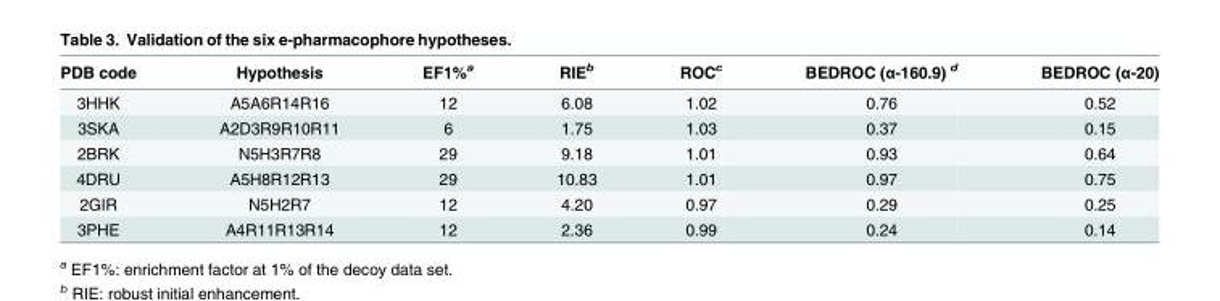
<table><thead><tr><td>PDB code</td><td>Hypothesis</td><td>EF1%<sup>a</sup></td><td>RIE<sup>b</sup></td><td>ROC<sup>c</sup></td><td>BEDROC (α-160.9) <sup>d</sup></td><td>BEDROC (α-20)</td></tr></thead><tbody><tr><td>3HHK</td><td>A5A6R14R16</td><td>12</td><td>6.08</td><td>1.02</td><td>0.76</td><td>0.52</td></tr><tr><td>3SKA</td><td>A2D3R9R10R11</td><td>6</td><td>1.75</td><td>1.03</td><td>0.37</td><td>0.15</td></tr><tr><td>2BRK</td><td>N5H3R7R8</td><td>29</td><td>9.18</td><td>1.01</td><td>0.93</td><td>0.64</td></tr><tr><td>4DRU</td><td>A5H8R12R13</td><td>29</td><td>10.83</td><td>1.01</td><td>0.97</td><td>0.75</td></tr><tr><td>2GIR</td><td>N5H2R7</td><td>12</td><td>4.20</td><td>0.97</td><td>0.29</td><td>0.25</td></tr><tr><td>3PHE</td><td>A4R11R13R14</td><td>12</td><td>2.36</td><td>0.99</td><td>0.24</td><td>0.14</td></tr></tbody></table>